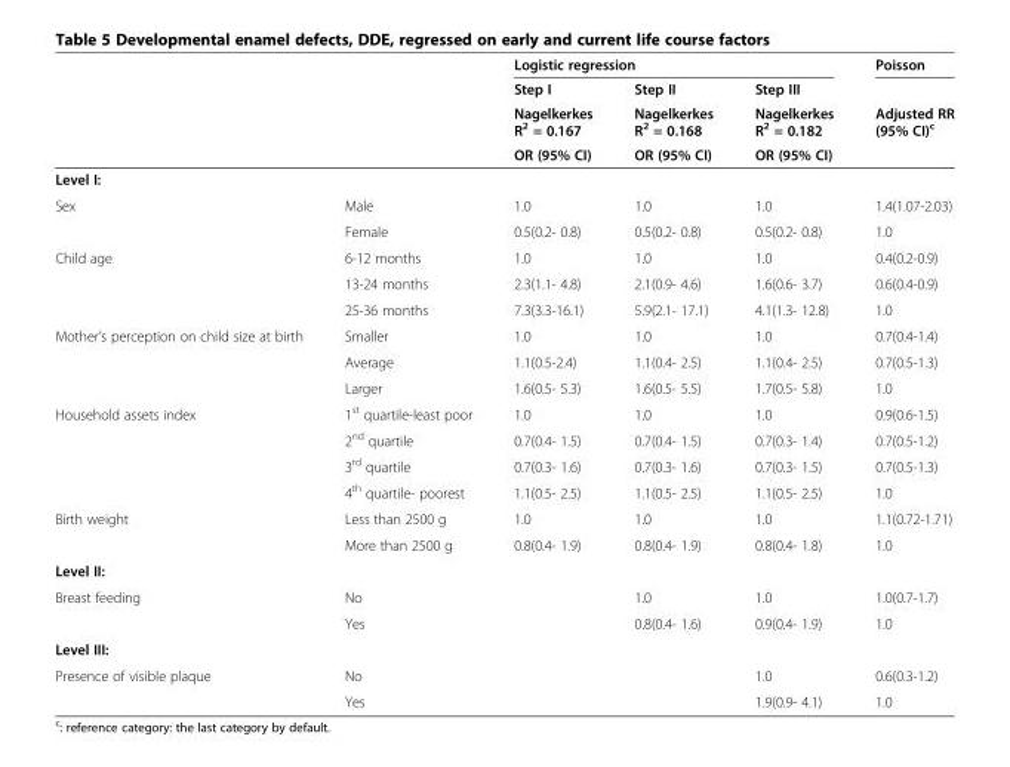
<table><thead><tr><td rowspan="4"></td><td rowspan="4"></td><td colspan="3">Logistic regression</td><td rowspan="4">Poisson Adjusted RR (95% CI)<sup>c</sup></td></tr><tr><td rowspan="3">Step I Nagelkerkes R<sup>2</sup> = 0.167 OR (95% CI)</td><td rowspan="3">Step II Nagelkerkes R<sup>2</sup> = 0.168 OR (95% CI)</td><td rowspan="3">Step III Nagelkerkes R<sup>2</sup> = 0.182 OR (95% CI)</td></tr><tr></tr><tr></tr></thead><tbody><tr><td colspan="6">Level I:</td></tr><tr><td rowspan="2">Sex</td><td>Male</td><td>1.0</td><td>1.0</td><td>1.0</td><td>1.4(1.07-2.03)</td></tr><tr><td>Female</td><td>0.5(0.2- 0.8)</td><td>0.5(0.2- 0.8)</td><td>0.5(0.2- 0.8)</td><td>1.0</td></tr><tr><td rowspan="3">Child age</td><td>6-12 months</td><td>1.0</td><td>1.0</td><td>1.0</td><td>0.4(0.2-0.9)</td></tr><tr><td>13-24 months</td><td>2.3(1.1- 4.8)</td><td>2.1(0.9- 4.6)</td><td>1.6(0.6- 3.7)</td><td>0.6(0.4-0.9)</td></tr><tr><td>25-36 months</td><td>7.3(3.3-16.1)</td><td>5.9(2.1- 17.1)</td><td>4.1(1.3- 12.8)</td><td>1.0</td></tr><tr><td rowspan="3">Mother’s perception on child size at birth</td><td>Smaller</td><td>1.0</td><td>1.0</td><td>1.0</td><td>0.7(0.4-1.4)</td></tr><tr><td>Average</td><td>1.1(0.5-2.4)</td><td>1.1(0.4- 2.5)</td><td>1.1(0.4- 2.5)</td><td>0.7(0.5-1.3)</td></tr><tr><td>Larger</td><td>1.6(0.5- 5.3)</td><td>1.6(0.5- 5.5)</td><td>1.7(0.5- 5.8)</td><td>1.0</td></tr><tr><td rowspan="4">Household assets index</td><td>1<sup>st</sup> quartile-least poor</td><td>1.0</td><td>1.0</td><td>1.0</td><td>0.9(0.6-1.5)</td></tr><tr><td>2<sup>nd</sup> quartile</td><td>0.7(0.4- 1.5)</td><td>0.7(0.4- 1.5)</td><td>0.7(0.3- 1.4)</td><td>0.7(0.5-1.2)</td></tr><tr><td>3<sup>rd</sup> quartile</td><td>0.7(0.3- 1.6)</td><td>0.7(0.3- 1.6)</td><td>0.7(0.3- 1.5)</td><td>0.7(0.5-1.3)</td></tr><tr><td>4<sup>th</sup> quartile- poorest</td><td>1.1(0.5- 2.5)</td><td>1.1(0.5- 2.5)</td><td>1.1(0.5- 2.5)</td><td>1.0</td></tr><tr><td rowspan="2">Birth weight</td><td>Less than 2500 g</td><td>1.0</td><td>1.0</td><td>1.0</td><td>1.1(0.72-1.71)</td></tr><tr><td>More than 2500 g</td><td>0.8(0.4- 1.9)</td><td>0.8(0.4- 1.9)</td><td>0.8(0.4- 1.8)</td><td>1.0</td></tr><tr><td colspan="6">Level II:</td></tr><tr><td rowspan="2">Breast feeding</td><td>No</td><td></td><td>1.0</td><td>1.0</td><td>1.0(0.7-1.7)</td></tr><tr><td>Yes</td><td></td><td>0.8(0.4- 1.6)</td><td>0.9(0.4- 1.9)</td><td>1.0</td></tr><tr><td colspan="6">Level III:</td></tr><tr><td rowspan="2">Presence of visible plaque</td><td>No</td><td></td><td></td><td>1.0</td><td>0.6(0.3-1.2)</td></tr><tr><td>Yes</td><td></td><td></td><td>1.9(0.9- 4.1)</td><td>1.0</td></tr></tbody></table>